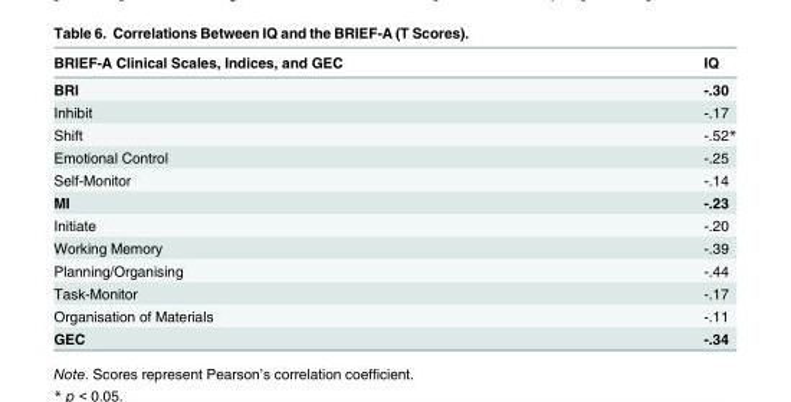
<table><thead><tr><td>BRIEF-A Clinical Scales, Indices, and GEC</td><td>IQ</td></tr></thead><tbody><tr><td>BRI</td><td>-.30</td></tr><tr><td>Inhibit</td><td>-.17</td></tr><tr><td>Shift</td><td>-.52*</td></tr><tr><td>Emotional Control</td><td>-.25</td></tr><tr><td>Self-Monitor</td><td>-.14</td></tr><tr><td>MI</td><td>-.23</td></tr><tr><td>Initiate</td><td>-.20</td></tr><tr><td>Working Memory</td><td>-.39</td></tr><tr><td>Planning/Organising</td><td>-.44</td></tr><tr><td>Task-Monitor</td><td>-.17</td></tr><tr><td>Organisation of Materials</td><td>-.11</td></tr><tr><td>GEC</td><td>-.34</td></tr></tbody></table>